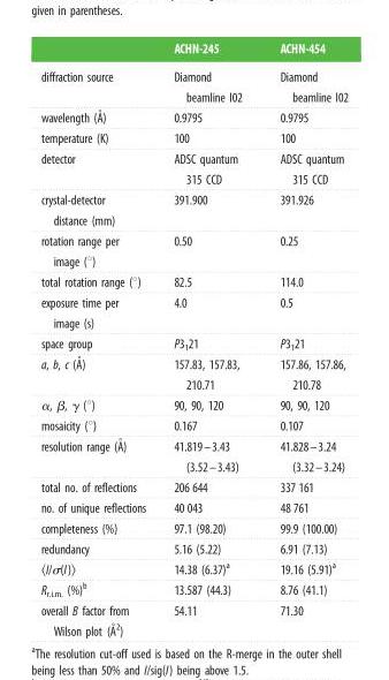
<table><thead><tr><td></td><td>ACHN-245</td><td>ACHN-454</td></tr></thead><tbody><tr><td>diffraction source</td><td>Diamond beamline I02</td><td>Diamond beamline I02</td></tr><tr><td>wavelength (A˚)</td><td>0.9795</td><td>0.9795</td></tr><tr><td>temperature (K)</td><td>100</td><td>100</td></tr><tr><td>detector</td><td>ADSC quantum 315 CCD</td><td>ADSC quantum 315 CCD</td></tr><tr><td>crystal-detector distance (mm)</td><td>391.900</td><td>391.926</td></tr><tr><td>rotation range per image (°)</td><td>0.50</td><td>0.25</td></tr><tr><td>total rotation range (°)</td><td>82.5</td><td>114.0</td></tr><tr><td>exposure time per image (s)</td><td>4.0</td><td>0.5</td></tr><tr><td>space group</td><td>P3<sub>1</sub>21</td><td>P3<sub>1</sub>21</td></tr><tr><td>a, b, c (A˚)</td><td>157.83, 157.83, 210.71</td><td>157.86, 157.86, 210.78</td></tr><tr><td>α, β, γ (°)</td><td>90, 90, 120</td><td>90, 90, 120</td></tr><tr><td>mosaicity (°)</td><td>0.167</td><td>0.107</td></tr><tr><td>resolution range (A˚)</td><td>41.819–3.43 (3.52–3.43)</td><td>41.828–3.24 (3.32–3.24)</td></tr><tr><td>total no. of reflections</td><td>206 644</td><td>337 161</td></tr><tr><td>no. of unique reflections</td><td>40 043</td><td>48 761</td></tr><tr><td>completeness (%)</td><td>97.1 (98.20)</td><td>99.9 (100.00)</td></tr><tr><td>redundancy</td><td>5.16 (5.22)</td><td>6.91 (7.13)</td></tr><tr><td>〈I/σ(I)〉</td><td>14.38 (6.37)<sup>a</sup></td><td>19.16 (5.91)<sup>a</sup></td></tr><tr><td>R<sub>r.i.m.</sub> (%)<sup>b</sup></td><td>13.587 (44.3)</td><td>8.76 (41.1)</td></tr><tr><td>overall B factor from Wilson plot (A˚2)</td><td>54.11</td><td>71.30</td></tr></tbody></table>